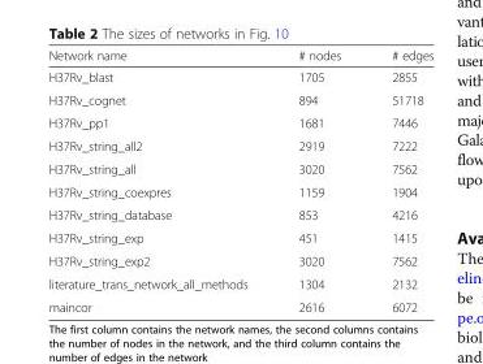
<table><thead><tr><td>Network name</td><td># nodes</td><td># edges</td></tr></thead><tbody><tr><td>H37Rv_blast</td><td>1705</td><td>2855</td></tr><tr><td>H37Rv_cognet</td><td>894</td><td>51718</td></tr><tr><td>H37Rv_pp1</td><td>1681</td><td>7446</td></tr><tr><td>H37Rv_string_all2</td><td>2919</td><td>7222</td></tr><tr><td>H37Rv_string_all</td><td>3020</td><td>7562</td></tr><tr><td>H37Rv_string_coexpres</td><td>1159</td><td>1904</td></tr><tr><td>H37Rv_string_database</td><td>853</td><td>4216</td></tr><tr><td>H37Rv_string_exp</td><td>451</td><td>1415</td></tr><tr><td>H37Rv_string_exp2</td><td>3020</td><td>7562</td></tr><tr><td>literature_trans_network_all_methods</td><td>1304</td><td>2132</td></tr><tr><td>maincor</td><td>2616</td><td>6072</td></tr></tbody></table>